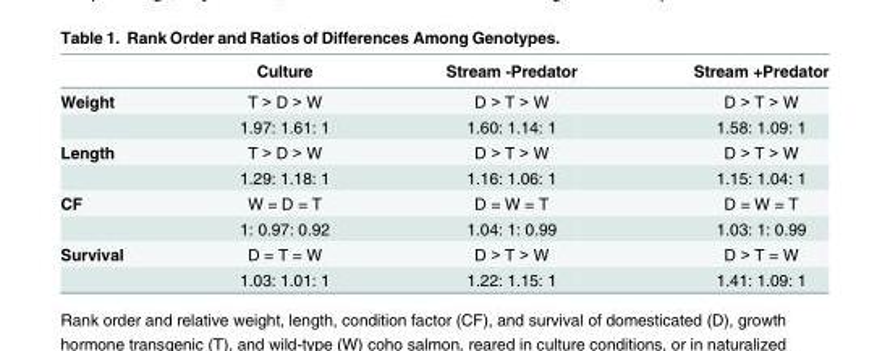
<table><thead><tr><td></td><td>Culture</td><td>Stream -Predator</td><td>Stream +Predator</td></tr></thead><tbody><tr><td rowspan="2">Weight</td><td>T &gt; D &gt; W</td><td>D &gt; T &gt; W</td><td>D &gt; T &gt; W</td></tr><tr><td>1.97: 1.61: 1</td><td>1.60: 1.14: 1</td><td>1.58: 1.09: 1</td></tr><tr><td rowspan="2">Length</td><td>T &gt; D &gt; W</td><td>D &gt; T &gt; W</td><td>D &gt; T &gt; W</td></tr><tr><td>1.29: 1.18: 1</td><td>1.16: 1.06: 1</td><td>1.15: 1.04: 1</td></tr><tr><td rowspan="2">CF</td><td>W = D = T</td><td>D = W = T</td><td>D = W = T</td></tr><tr><td>1: 0.97: 0.92</td><td>1.04: 1: 0.99</td><td>1.03: 1: 0.99</td></tr><tr><td rowspan="2">Survival</td><td>D = T = W</td><td>D &gt; T &gt; W</td><td>D &gt; T = W</td></tr><tr><td>1.03: 1.01: 1</td><td>1.22: 1.15: 1</td><td>1.41: 1.09: 1</td></tr></tbody></table>